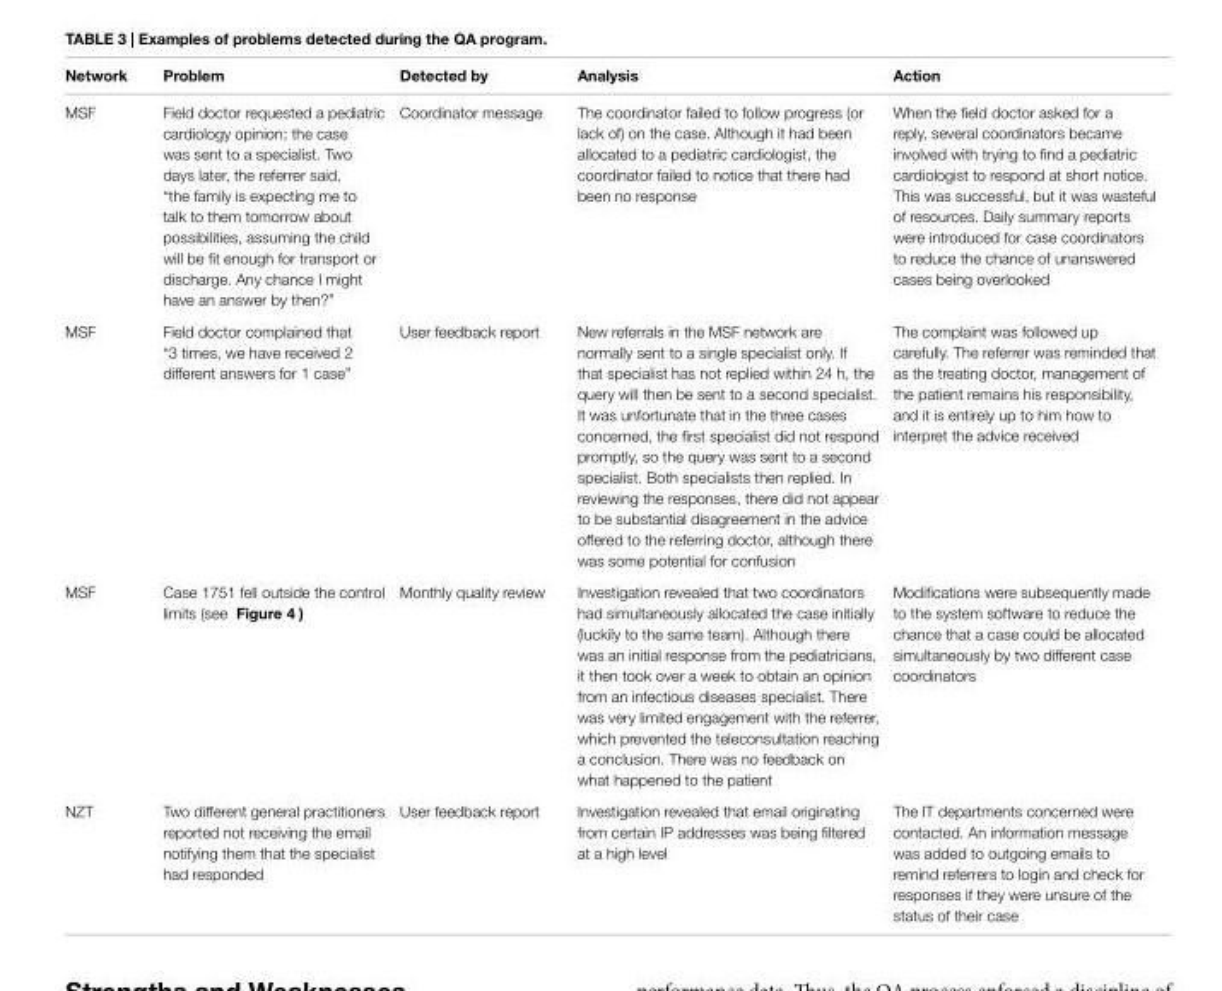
<table><thead><tr><td>network</td><td>Problem</td><td>Detected by</td><td>analysis</td><td>action</td></tr></thead><tbody><tr><td>MSF</td><td>Field doctor requested a pediatric cardiology opinion; the case was sent to a specialist. Two days later, the referrer said, “the family is expecting me to talk to them tomorrow about possibilities, assuming the child will be fit enough for transport or discharge. Any chance I might have an answer by then?”</td><td>Coordinator message</td><td>The coordinator failed to follow progress (or lack of) on the case. Although it had been allocated to a pediatric cardiologist, the coordinator failed to notice that there had been no response</td><td>When the field doctor asked for a reply, several coordinators became involved with trying to find a pediatric cardiologist to respond at short notice. This was successful, but it was wasteful of resources. Daily summary reports were introduced for case coordinators to reduce the chance of unanswered cases being overlooked</td></tr><tr><td>MSF</td><td>Field doctor complained that “3 times, we have received 2 different answers for 1 case”</td><td>User feedback report</td><td>New referrals in the MSF network are normally sent to a single specialist only. If that specialist has not replied within 24 h, the query will then be sent to a second specialist. It was unfortunate that in the three cases concerned, the first specialist did not respond promptly, so the query was sent to a second specialist. Both specialists then replied. In reviewing the responses, there did not appear to be substantial disagreement in the advice offered to the referring doctor, although there was some potential for confusion</td><td>The complaint was followed up carefully. The referrer was reminded that as the treating doctor, management of the patient remains his responsibility, and it is entirely up to him how to interpret the advice received</td></tr><tr><td>MSF</td><td>Case 1751 fell outside the control limits (see Figure 4 )</td><td>Monthly quality review</td><td>Investigation revealed that two coordinators had simultaneously allocated the case initially (luckily to the same team). Although there was an initial response from the pediatricians, it then took over a week to obtain an opinion from an infectious diseases specialist. There was very limited engagement with the referrer, which prevented the teleconsultation reaching a conclusion. There was no feedback on what happened to the patient</td><td>Modifications were subsequently made to the system software to reduce the chance that a case could be allocated simultaneously by two different case coordinators</td></tr><tr><td>NZT</td><td>Two different general practitioners reported not receiving the email notifying them that the specialist had responded</td><td>User feedback report</td><td>Investigation revealed that email originating from certain IP addresses was being filtered at a high level</td><td>The IT departments concerned were contacted. An information message was added to outgoing emails to remind referrers to login and check for responses if they were unsure of the status of their case</td></tr></tbody></table>